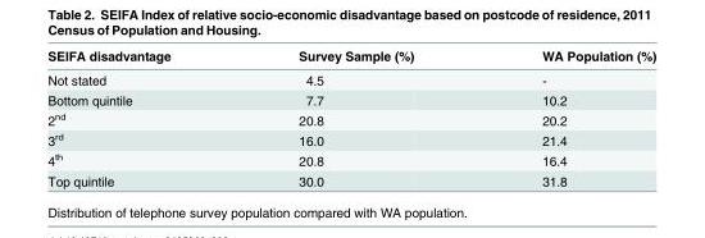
<table><thead><tr><td>SEIFA disadvantage</td><td>Survey Sample (%)</td><td>WA Population (%)</td></tr></thead><tbody><tr><td>Not stated</td><td>4.5</td><td>-</td></tr><tr><td>Bottom quintile</td><td>7.7</td><td>10.2</td></tr><tr><td>2<sup>nd</sup></td><td>20.8</td><td>20.2</td></tr><tr><td>3<sup>rd</sup></td><td>16.0</td><td>21.4</td></tr><tr><td>4<sup>th</sup></td><td>20.8</td><td>16.4</td></tr><tr><td>Top quintile</td><td>30.0</td><td>31.8</td></tr></tbody></table>